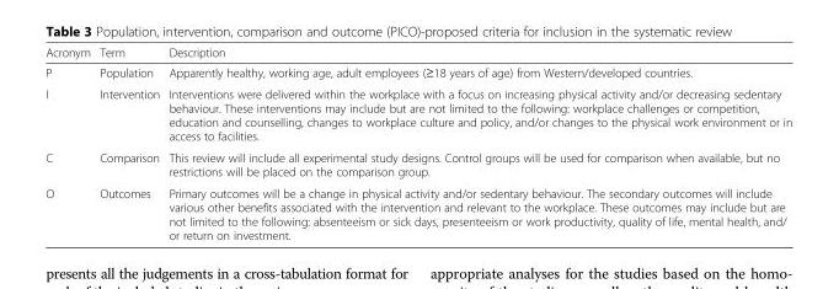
<table><thead><tr><td>Acronym</td><td>Term</td><td>Description</td></tr></thead><tbody><tr><td>P</td><td>Population</td><td>Apparently healthy, working age, adult employees (≥18 years of age) from Western/developed countries.</td></tr><tr><td>I</td><td>Intervention</td><td>Interventions were delivered within the workplace with a focus on increasing physical activity and/or decreasing sedentary behaviour. These interventions may include but are not limited to the following: workplace challenges or competition, education and counselling, changes to workplace culture and policy, and/or changes to the physical work environment or in access to facilities.</td></tr><tr><td>C</td><td>Comparison</td><td>This review will include all experimental study designs. Control groups will be used for comparison when available, but no restrictions will be placed on the comparison group.</td></tr><tr><td>O</td><td>Outcomes</td><td>Primary outcomes will be a change in physical activity and/or sedentary behaviour. The secondary outcomes will include various other benefits associated with the intervention and relevant to the workplace. These outcomes may include but are not limited to the following: absenteeism or sick days, presenteeism or work productivity, quality of life, mental health, and/ or return on investment.</td></tr></tbody></table>